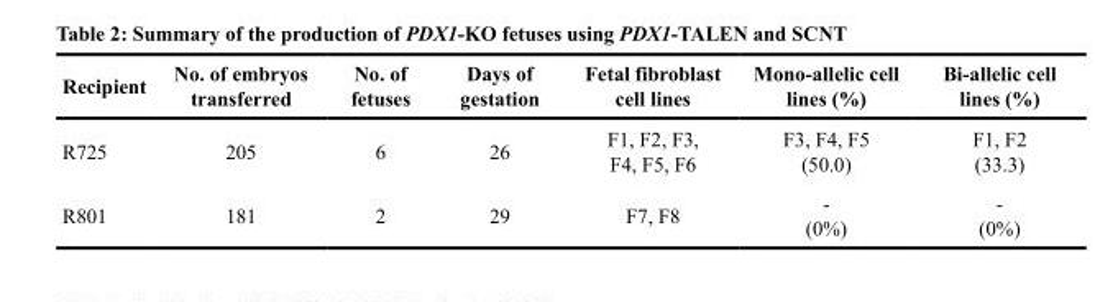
<table><thead><tr><td>Recipient</td><td>No. of embryos transferred</td><td>No. of fetuses</td><td>Days of gestation</td><td>Fetal fibroblast cell lines</td><td>Mono-allelic cell lines (%)</td><td>Bi-allelic cell lines (%)</td></tr></thead><tbody><tr><td>R725</td><td>205</td><td>6</td><td>26</td><td>F1, F2, F3, F4, F5, F6</td><td>F3, F4, F5 (50.0)</td><td>F1, F2 (33.3)</td></tr><tr><td>R801</td><td>181</td><td>2</td><td>29</td><td>F7, F8</td><td>- (0%)</td><td>- (0%)</td></tr></tbody></table>